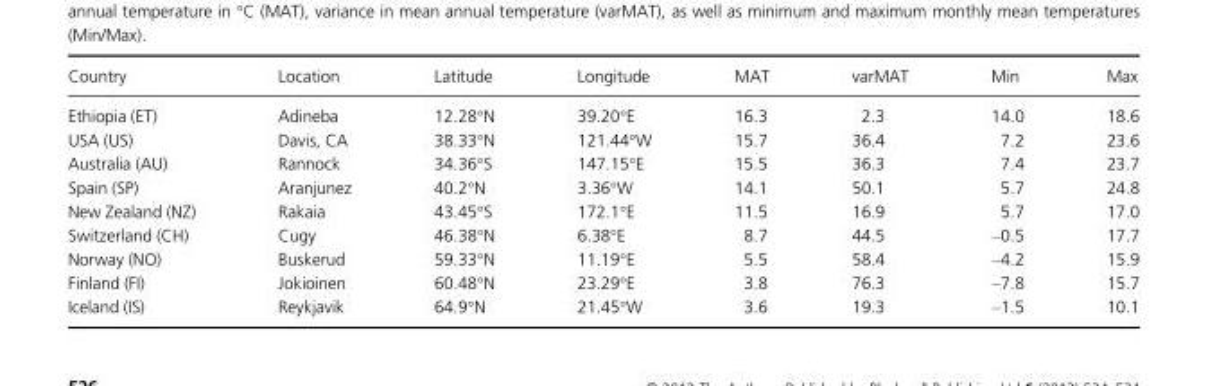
<table><thead><tr><td>Country</td><td>Location</td><td>Latitude</td><td>Longitude</td><td>MAT</td><td>varMAT</td><td>Min</td><td>Max</td></tr></thead><tbody><tr><td>Ethiopia (ET)</td><td>Adineba</td><td>12.28°N</td><td>39.20°E</td><td>16.3</td><td>2.3</td><td>14.0</td><td>18.6</td></tr><tr><td>USA (US)</td><td>Davis, CA</td><td>38.33°N</td><td>121.44°W</td><td>15.7</td><td>36.4</td><td>7.2</td><td>23.6</td></tr><tr><td>Australia (AU)</td><td>Rannock</td><td>34.36°S</td><td>147.15°E</td><td>15.5</td><td>36.3</td><td>7.4</td><td>23.7</td></tr><tr><td>Spain (SP)</td><td>Aranjunez</td><td>40.2°N</td><td>3.36°W</td><td>14.1</td><td>50.1</td><td>5.7</td><td>24.8</td></tr><tr><td>New Zealand (NZ)</td><td>Rakaia</td><td>43.45°S</td><td>172.1°E</td><td>11.5</td><td>16.9</td><td>5.7</td><td>17.0</td></tr><tr><td>Switzerland (CH)</td><td>Cugy</td><td>46.38°N</td><td>6.38°E</td><td>8.7</td><td>44.5</td><td>–0.5</td><td>17.7</td></tr><tr><td>Norway (NO)</td><td>Buskerud</td><td>59.33°N</td><td>11.19°E</td><td>5.5</td><td>58.4</td><td>–4.2</td><td>15.9</td></tr><tr><td>Finland (FI)</td><td>Jokioinen</td><td>60.48°N</td><td>23.29°E</td><td>3.8</td><td>76.3</td><td>–7.8</td><td>15.7</td></tr><tr><td>Iceland (IS)</td><td>Reykjavik</td><td>64.9°N</td><td>21.45°W</td><td>3.6</td><td>19.3</td><td>–1.5</td><td>10.1</td></tr></tbody></table>